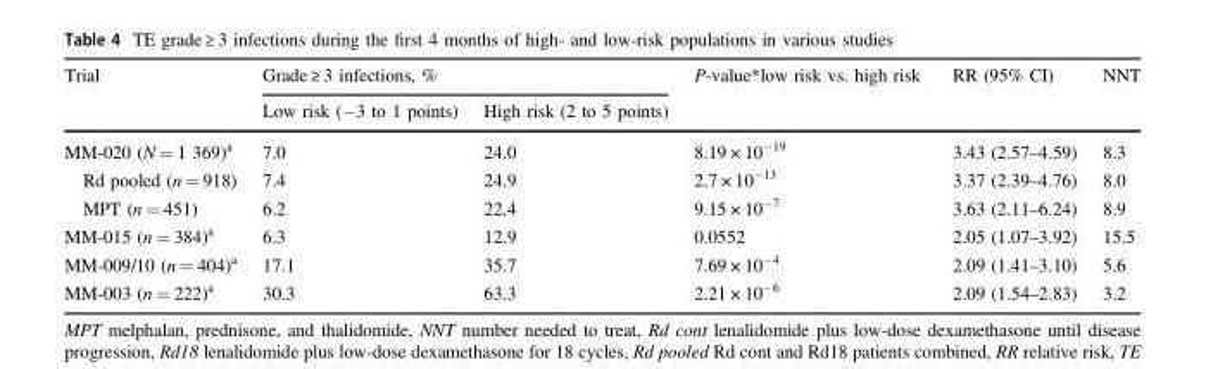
<table><thead><tr><td rowspan="2">Trial</td><td colspan="2">Grade ≥ 3 infections, %</td><td rowspan="2">P-value*low risk vs. high risk</td><td rowspan="2">RR (95% CI)</td><td rowspan="2">NNT</td></tr><tr><td>Low risk (−3 to 1 points)</td><td>High risk (2 to 5 points)</td></tr></thead><tbody><tr><td>MM-020 (N = 1 369)<sup>a</sup></td><td>7.0</td><td>24.0</td><td>8.19 × 10<sup>−19</sup></td><td>3.43 (2.57–4.59)</td><td>8.3</td></tr><tr><td>Rd pooled (n = 918)</td><td>7.4</td><td>24.9</td><td>2.7 × 10<sup>−13</sup></td><td>3.37 (2.39–4.76)</td><td>8.0</td></tr><tr><td>MPT (n = 451)</td><td>6.2</td><td>22.4</td><td>9.15 × 10<sup>−7</sup></td><td>3.63 (2.11–6.24)</td><td>8.9</td></tr><tr><td>MM-015 (n = 384)<sup>a</sup></td><td>6.3</td><td>12.9</td><td>0.0552</td><td>2.05 (1.07–3.92)</td><td>15.5</td></tr><tr><td>MM-009/10 (n = 404)<sup>a</sup></td><td>17.1</td><td>35.7</td><td>7.69 × 10<sup>−4</sup></td><td>2.09 (1.41–3.10)</td><td>5.6</td></tr><tr><td>MM-003 (n = 222)<sup>a</sup></td><td>30.3</td><td>63.3</td><td>2.21 × 10<sup>−6</sup></td><td>2.09 (1.54–2.83)</td><td>3.2</td></tr></tbody></table>